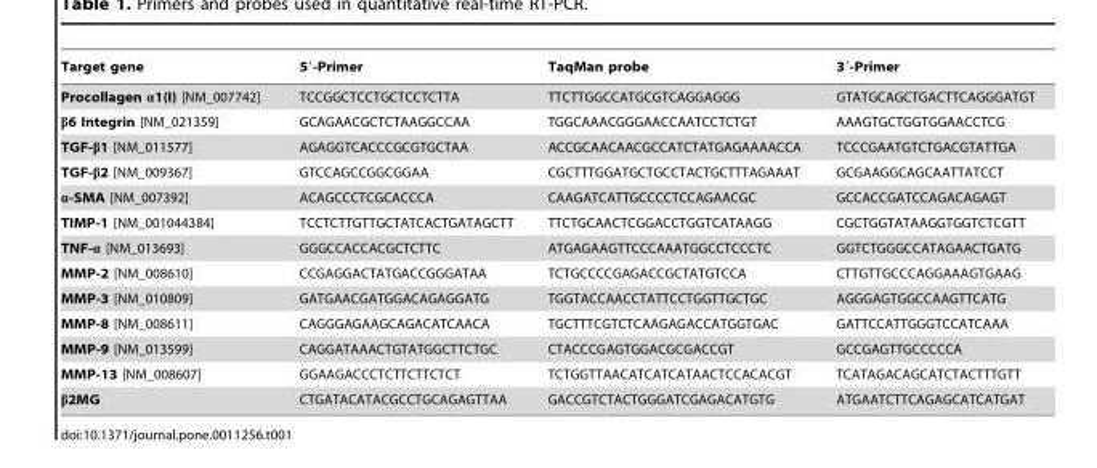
<table><thead><tr><td>Target gene</td><td>5′-Primer</td><td>TaqMan probe</td><td>3′-Primer</td></tr></thead><tbody><tr><td>Procollagen α1(I) [NM_007742]</td><td>TCCGGCTCCTGCTCCTCTTA</td><td>TTCTTGGCCATGCGTCAGGAGGG</td><td>GTATGCAGCTGACTTCAGGGATGT</td></tr><tr><td>β6 Integrin [NM_021359]</td><td>GCAGAACGCTCTAAGGCCAA</td><td>TGGCAAACGGGAACCAATCCTCTGT</td><td>AAAGTGCTGGTGGAACCTCG</td></tr><tr><td>TGF-β1 [NM_011577]</td><td>AGAGGTCACCCGCGTGCTAA</td><td>ACCGCAACAACGCCATCTATGAGAAAACCA</td><td>TCCCGAATGTCTGACGTATTGA</td></tr><tr><td>TGF-β2 [NM_009367]</td><td>GTCCAGCCGGCGGAA</td><td>CGCTTTGGATGCTGCCTACTGCTTTAGAAAT</td><td>GCGAAGGCAGCAATTATCCT</td></tr><tr><td>α-SMA [NM_007392]</td><td>ACAGCCCTCGCACCCA</td><td>CAAGATCATTGCCCCTCCAGAACGC</td><td>GCCACCGATCCAGACAGAGT</td></tr><tr><td>TIMP-1 [NM_001044384]</td><td>TCCTCTTGTTGCTATCACTGATAGCTT</td><td>TTCTGCAACTCGGACCTGGTCATAAGG</td><td>CGCTGGTATAAGGTGGTCTCGTT</td></tr><tr><td>TNF-α [NM_013693]</td><td>GGGCCACCACGCTCTTC</td><td>ATGAGAAGTTCCCAAATGGCCTCCCTC</td><td>GGTCTGGGCCATAGAACTGATG</td></tr><tr><td>MMP-2 [NM_008610]</td><td>CCGAGGACTATGACCGGGATAA</td><td>TCTGCCCCGAGACCGCTATGTCCA</td><td>CTTGTTGCCCAGGAAAGTGAAG</td></tr><tr><td>MMP-3 [NM_010809]</td><td>GATGAACGATGGACAGAGGATG</td><td>TGGTACCAACCTATTCCTGGTTGCTGC</td><td>AGGGAGTGGCCAAGTTCATG</td></tr><tr><td>MMP-8 [NM_008611]</td><td>CAGGGAGAAGCAGACATCAACA</td><td>TGCTTTCGTCTCAAGAGACCATGGTGAC</td><td>GATTCCATTGGGTCCATCAAA</td></tr><tr><td>MMP-9 [NM_013599]</td><td>CAGGATAAACTGTATGGCTTCTGC</td><td>CTACCCGAGTGGACGCGACCGT</td><td>GCCGAGTTGCCCCCA</td></tr><tr><td>MMP-13 [NM_008607]</td><td>GGAAGACCCTCTTCTTCTCT</td><td>TCTGGTTAACATCATCATAACTCCACACGT</td><td>TCATAGACAGCATCTACTTTGTT</td></tr><tr><td>β2MG</td><td>CTGATACATACGCCTGCAGAGTTAA</td><td>GACCGTCTACTGGGATCGAGACATGTG</td><td>ATGAATCTTCAGAGCATCATGAT</td></tr></tbody></table>